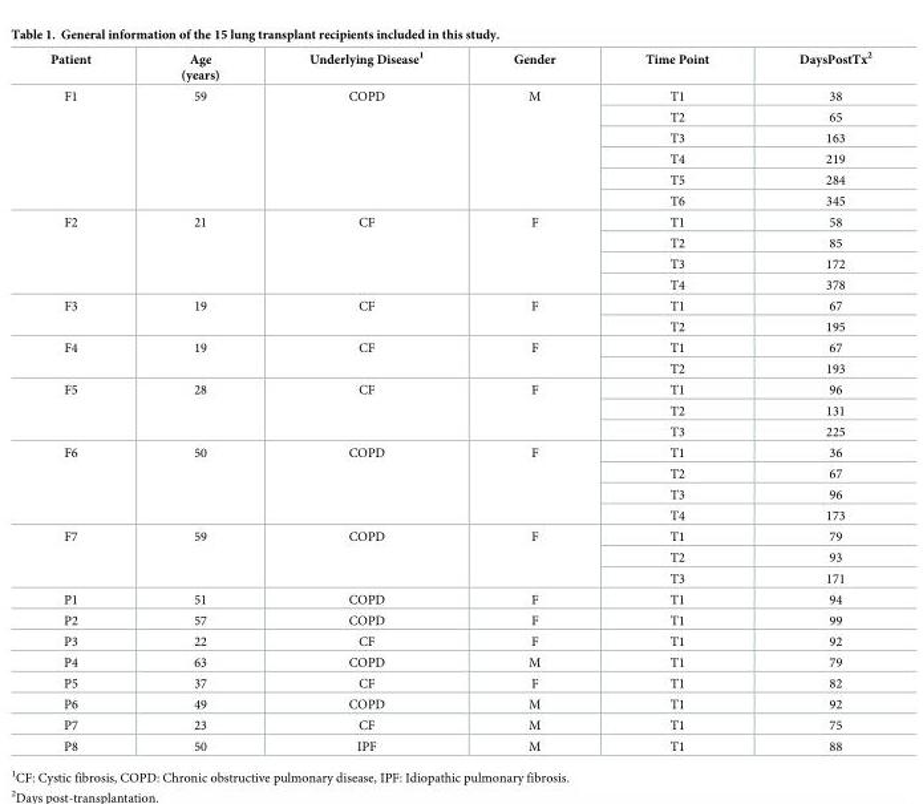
<table><thead><tr><td>Patient</td><td>Age (years)</td><td>Underlying Disease<sup>1</sup></td><td>Gender</td><td>Time Point</td><td>DaysPostTx<sup>2</sup></td></tr></thead><tbody><tr><td rowspan="6">F1</td><td rowspan="6">59</td><td rowspan="6">COPD</td><td rowspan="6">M</td><td>T1</td><td>38</td></tr><tr><td>T2</td><td>65</td></tr><tr><td>T3</td><td>163</td></tr><tr><td>T4</td><td>219</td></tr><tr><td>T5</td><td>284</td></tr><tr><td>T6</td><td>345</td></tr><tr><td rowspan="4">F2</td><td rowspan="4">21</td><td rowspan="4">CF</td><td rowspan="4">F</td><td>T1</td><td>58</td></tr><tr><td>T2</td><td>85</td></tr><tr><td>T3</td><td>172</td></tr><tr><td>T4</td><td>378</td></tr><tr><td rowspan="2">F3</td><td rowspan="2">19</td><td rowspan="2">CF</td><td rowspan="2">F</td><td>T1</td><td>67</td></tr><tr><td>T2</td><td>195</td></tr><tr><td rowspan="2">F4</td><td rowspan="2">19</td><td rowspan="2">CF</td><td rowspan="2">F</td><td>T1</td><td>67</td></tr><tr><td>T2</td><td>193</td></tr><tr><td rowspan="3">F5</td><td rowspan="3">28</td><td rowspan="3">CF</td><td rowspan="3">F</td><td>T1</td><td>96</td></tr><tr><td>T2</td><td>131</td></tr><tr><td>T3</td><td>225</td></tr><tr><td rowspan="4">F6</td><td rowspan="4">50</td><td rowspan="4">COPD</td><td rowspan="4">F</td><td>T1</td><td>36</td></tr><tr><td>T2</td><td>67</td></tr><tr><td>T3</td><td>96</td></tr><tr><td>T4</td><td>173</td></tr><tr><td rowspan="3">F7</td><td rowspan="3">59</td><td rowspan="3">COPD</td><td rowspan="3">F</td><td>T1</td><td>79</td></tr><tr><td>T2</td><td>93</td></tr><tr><td>T3</td><td>171</td></tr><tr><td>P1</td><td>51</td><td>COPD</td><td>F</td><td>T1</td><td>94</td></tr><tr><td>P2</td><td>57</td><td>COPD</td><td>F</td><td>T1</td><td>99</td></tr><tr><td>P3</td><td>22</td><td>CF</td><td>F</td><td>T1</td><td>92</td></tr><tr><td>P4</td><td>63</td><td>COPD</td><td>M</td><td>T1</td><td>79</td></tr><tr><td>P5</td><td>37</td><td>CF</td><td>F</td><td>T1</td><td>82</td></tr><tr><td>P6</td><td>49</td><td>COPD</td><td>M</td><td>T1</td><td>92</td></tr><tr><td>P7</td><td>23</td><td>CF</td><td>M</td><td>T1</td><td>75</td></tr><tr><td>P8</td><td>50</td><td>IPF</td><td>M</td><td>T1</td><td>88</td></tr></tbody></table>